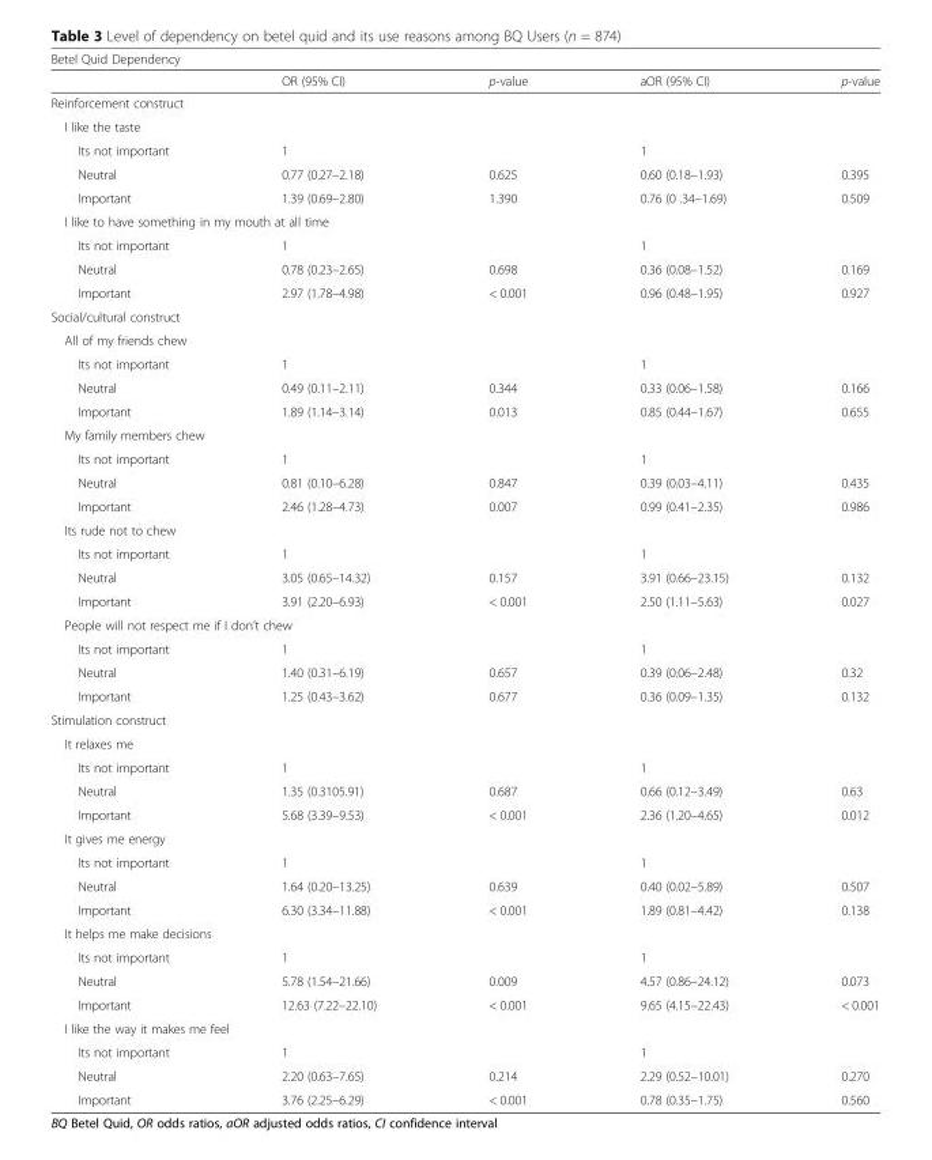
<table><thead><tr><td colspan="5">Betel Quid Dependency</td></tr><tr><td></td><td>OR (95% CI)</td><td>p-value</td><td>aOR (95% CI)</td><td>p-value</td></tr></thead><tbody><tr><td colspan="5">Reinforcement construct</td></tr><tr><td colspan="5">I like the taste</td></tr><tr><td>Its not important</td><td>1</td><td></td><td>1</td><td></td></tr><tr><td>Neutral</td><td>0.77 (0.27–2.18)</td><td>0.625</td><td>0.60 (0.18–1.93)</td><td>0.395</td></tr><tr><td>Important</td><td>1.39 (0.69–2.80)</td><td>1.390</td><td>0.76 (0 .34–1.69)</td><td>0.509</td></tr><tr><td colspan="5">I like to have something in my mouth at all time</td></tr><tr><td>Its not important</td><td>1</td><td></td><td>1</td><td></td></tr><tr><td>Neutral</td><td>0.78 (0.23–2.65)</td><td>0.698</td><td>0.36 (0.08–1.52)</td><td>0.169</td></tr><tr><td>Important</td><td>2.97 (1.78–4.98)</td><td>&lt; 0.001</td><td>0.96 (0.48–1.95)</td><td>0.927</td></tr><tr><td colspan="5">Social/cultural construct</td></tr><tr><td colspan="5">All of my friends chew</td></tr><tr><td>Its not important</td><td>1</td><td></td><td>1</td><td></td></tr><tr><td>Neutral</td><td>0.49 (0.11–2.11)</td><td>0.344</td><td>0.33 (0.06–1.58)</td><td>0.166</td></tr><tr><td>Important</td><td>1.89 (1.14–3.14)</td><td>0.013</td><td>0.85 (0.44–1.67)</td><td>0.655</td></tr><tr><td colspan="5">My family members chew</td></tr><tr><td>Its not important</td><td>1</td><td></td><td>1</td><td></td></tr><tr><td>Neutral</td><td>0.81 (0.10–6.28)</td><td>0.847</td><td>0.39 (0.03–4.11)</td><td>0.435</td></tr><tr><td>Important</td><td>2.46 (1.28–4.73)</td><td>0.007</td><td>0.99 (0.41–2.35)</td><td>0.986</td></tr><tr><td colspan="5">Its rude not to chew</td></tr><tr><td>Its not important</td><td>1</td><td></td><td>1</td><td></td></tr><tr><td>Neutral</td><td>3.05 (0.65–14.32)</td><td>0.157</td><td>3.91 (0.66–23.15)</td><td>0.132</td></tr><tr><td>Important</td><td>3.91 (2.20–6.93)</td><td>&lt; 0.001</td><td>2.50 (1.11–5.63)</td><td>0.027</td></tr><tr><td colspan="5">People will not respect me if I don’t chew</td></tr><tr><td>Its not important</td><td>1</td><td></td><td>1</td><td></td></tr><tr><td>Neutral</td><td>1.40 (0.31–6.19)</td><td>0.657</td><td>0.39 (0.06–2.48)</td><td>0.32</td></tr><tr><td>Important</td><td>1.25 (0.43–3.62)</td><td>0.677</td><td>0.36 (0.09–1.35)</td><td>0.132</td></tr><tr><td colspan="5">Stimulation construct</td></tr><tr><td colspan="5">It relaxes me</td></tr><tr><td>Its not important</td><td>1</td><td></td><td>1</td><td></td></tr><tr><td>Neutral</td><td>1.35 (0.3105.91)</td><td>0.687</td><td>0.66 (0.12–3.49)</td><td>0.63</td></tr><tr><td>Important</td><td>5.68 (3.39–9.53)</td><td>&lt; 0.001</td><td>2.36 (1.20–4.65)</td><td>0.012</td></tr><tr><td colspan="5">It gives me energy</td></tr><tr><td>Its not important</td><td>1</td><td></td><td>1</td><td></td></tr><tr><td>Neutral</td><td>1.64 (0.20–13.25)</td><td>0.639</td><td>0.40 (0.02–5.89)</td><td>0.507</td></tr><tr><td>Important</td><td>6.30 (3.34–11.88)</td><td>&lt; 0.001</td><td>1.89 (0.81–4.42)</td><td>0.138</td></tr><tr><td colspan="5">It helps me make decisions</td></tr><tr><td>Its not important</td><td>1</td><td></td><td>1</td><td></td></tr><tr><td>Neutral</td><td>5.78 (1.54–21.66)</td><td>0.009</td><td>4.57 (0.86–24.12)</td><td>0.073</td></tr><tr><td>Important</td><td>12.63 (7.22–22.10)</td><td>&lt; 0.001</td><td>9.65 (4.15–22.43)</td><td>&lt; 0.001</td></tr><tr><td colspan="5">I like the way it makes me feel</td></tr><tr><td>Its not important</td><td>1</td><td></td><td>1</td><td></td></tr><tr><td>Neutral</td><td>2.20 (0.63–7.65)</td><td>0.214</td><td>2.29 (0.52–10.01)</td><td>0.270</td></tr><tr><td>Important</td><td>3.76 (2.25–6.29)</td><td>&lt; 0.001</td><td>0.78 (0.35–1.75)</td><td>0.560</td></tr></tbody></table>